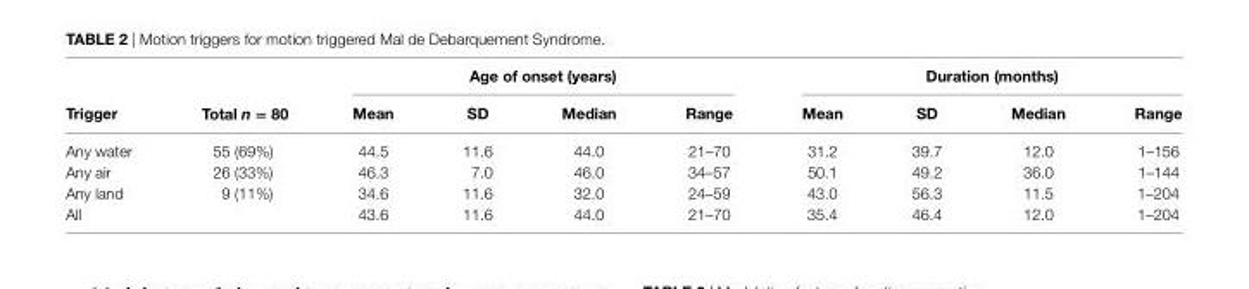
<table><thead><tr><td rowspan="2">Trigger</td><td rowspan="2">Total n = 80</td><td colspan="4">age of onset (years)</td><td colspan="4">Duration (months)</td></tr><tr><td>Mean</td><td>sD</td><td>Median</td><td>range</td><td>Mean</td><td>sD</td><td>Median</td><td>range</td></tr></thead><tbody><tr><td>Any water</td><td>55 (69%)</td><td>44.5</td><td>11.6</td><td>44.0</td><td>21–70</td><td>31.2</td><td>39.7</td><td>12.0</td><td>1–156</td></tr><tr><td>Any air</td><td>26 (33%)</td><td>46.3</td><td>7.0</td><td>46.0</td><td>34–57</td><td>50.1</td><td>49.2</td><td>36.0</td><td>1–144</td></tr><tr><td>Any land</td><td>9 (11%)</td><td>34.6</td><td>11.6</td><td>32.0</td><td>24–59</td><td>43.0</td><td>56.3</td><td>11.5</td><td>1–204</td></tr><tr><td>All</td><td></td><td>43.6</td><td>11.6</td><td>44.0</td><td>21–70</td><td>35.4</td><td>46.4</td><td>12.0</td><td>1–204</td></tr></tbody></table>